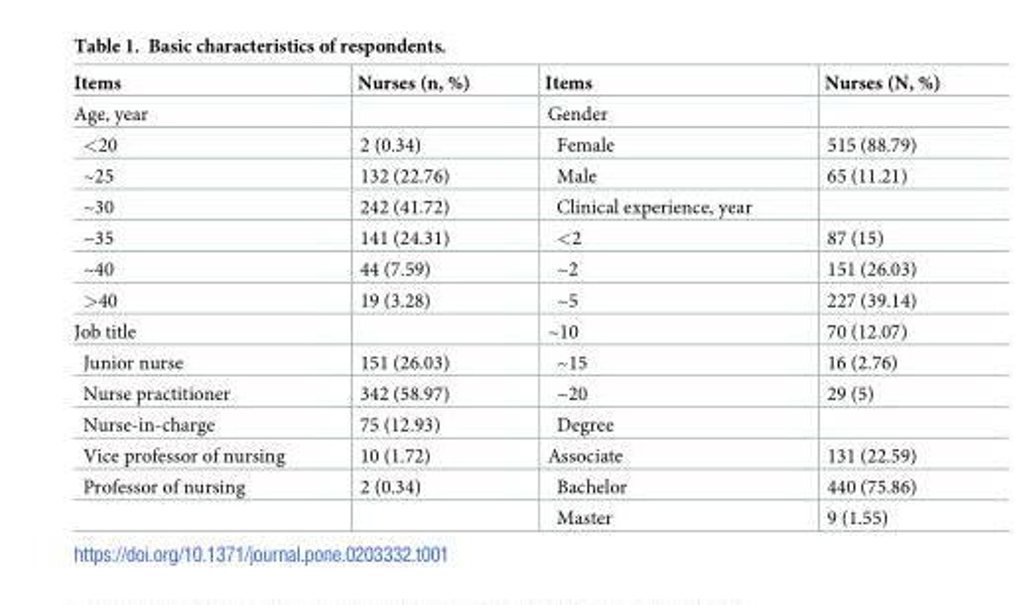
<table><thead><tr><td>Items</td><td>Nurses (n, %)</td><td>Items</td><td>Nurses (N, %)</td></tr></thead><tbody><tr><td>Age, year</td><td></td><td>Gender</td><td></td></tr><tr><td>&lt;20</td><td>2 (0.34)</td><td>Female</td><td>515 (88.79)</td></tr><tr><td>~25</td><td>132 (22.76)</td><td>Male</td><td>65 (11.21)</td></tr><tr><td>~30</td><td>242 (41.72)</td><td>Clinical experience, year</td><td></td></tr><tr><td>~35</td><td>141 (24.31)</td><td>&lt;2</td><td>87 (15)</td></tr><tr><td>~40</td><td>44 (7.59)</td><td>~2</td><td>151 (26.03)</td></tr><tr><td>&gt;40</td><td>19 (3.28)</td><td>~5</td><td>227 (39.14)</td></tr><tr><td>Job title</td><td></td><td>~10</td><td>70 (12.07)</td></tr><tr><td>Junior nurse</td><td>151 (26.03)</td><td>~15</td><td>16 (2.76)</td></tr><tr><td>Nurse practitioner</td><td>342 (58.97)</td><td>~20</td><td>29 (5)</td></tr><tr><td>Nurse-in-charge</td><td>75 (12.93)</td><td>Degree</td><td></td></tr><tr><td>Vice professor of nursing</td><td>10 (1.72)</td><td>Associate</td><td>131 (22.59)</td></tr><tr><td rowspan="2">Professor of nursing</td><td>2 (0.34)</td><td>Bachelor</td><td>440 (75.86)</td></tr><tr><td></td><td>Master</td><td>9 (1.55)</td></tr></tbody></table>